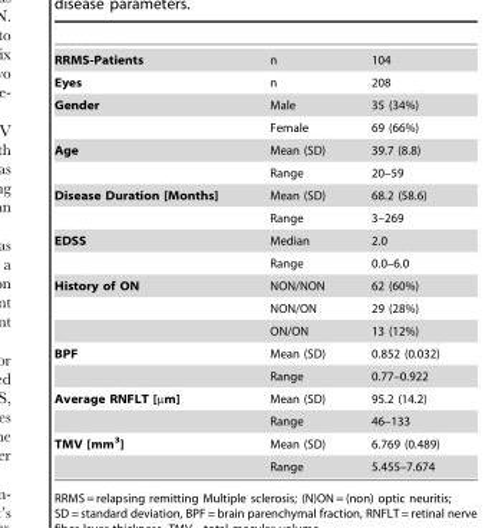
<table><tbody><tr><td>RRMS-Patients</td><td>n</td><td>104</td></tr><tr><td>Eyes</td><td>n</td><td>208</td></tr><tr><td rowspan="2">Gender</td><td>Male</td><td>35 (34%)</td></tr><tr><td>Female</td><td>69 (66%)</td></tr><tr><td rowspan="2">Age</td><td>Mean (SD)</td><td>39.7 (8.8)</td></tr><tr><td>Range</td><td>20–59</td></tr><tr><td rowspan="2">Disease Duration [Months]</td><td>Mean (SD)</td><td>68.2 (58.6)</td></tr><tr><td>Range</td><td>3–269</td></tr><tr><td rowspan="2">EDSS</td><td>Median</td><td>2.0</td></tr><tr><td>Range</td><td>0.0–6.0</td></tr><tr><td rowspan="3">History of ON</td><td>NON/NON</td><td>62 (60%)</td></tr><tr><td>NON/ON</td><td>29 (28%)</td></tr><tr><td>ON/ON</td><td>13 (12%)</td></tr><tr><td rowspan="2">BPF</td><td>Mean (SD)</td><td>0.852 (0.032)</td></tr><tr><td>Range</td><td>0.77–0.922</td></tr><tr><td rowspan="2">Average RNFLT [µm]</td><td>Mean (SD)</td><td>95.2 (14.2)</td></tr><tr><td>Range</td><td>46–133</td></tr><tr><td rowspan="2">TMV [mm<sup>3</sup>]</td><td>Mean (SD)</td><td>6.769 (0.489)</td></tr><tr><td>Range</td><td>5.455–7.674</td></tr></tbody></table>